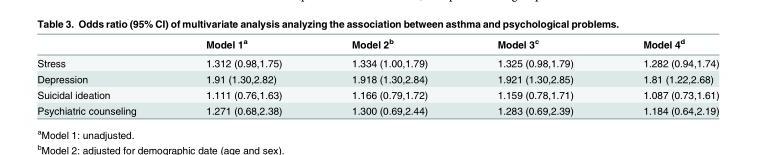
<table><thead><tr><td></td><td>Model 1<sup>a</sup></td><td>Model 2<sup>b</sup></td><td>Model 3<sup>c</sup></td><td>Model 4<sup>d</sup></td></tr></thead><tbody><tr><td>Stress</td><td>1.312 (0.98,1.75)</td><td>1.334 (1.00,1.79)</td><td>1.325 (0.98,1.79)</td><td>1.282 (0.94,1.74)</td></tr><tr><td>Depression</td><td>1.91 (1.30,2.82)</td><td>1.918 (1.30,2.84)</td><td>1.921 (1.30,2.85)</td><td>1.81 (1.22,2.68)</td></tr><tr><td>Suicidal ideation</td><td>1.111 (0.76,1.63)</td><td>1.166 (0.79,1.72)</td><td>1.159 (0.78,1.71)</td><td>1.087 (0.73,1.61)</td></tr><tr><td>Psychiatric counseling</td><td>1.271 (0.68,2.38)</td><td>1.300 (0.69,2.44)</td><td>1.283 (0.69,2.39)</td><td>1.184 (0.64,2.19)</td></tr></tbody></table>